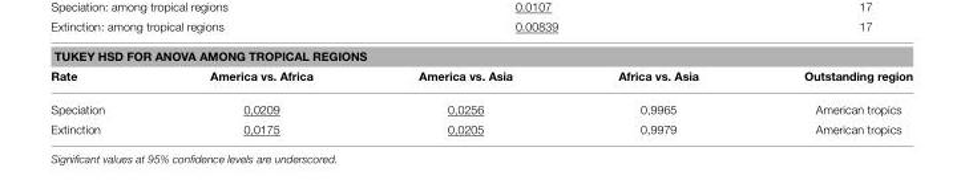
<table><thead><tr><td colspan="5">TUKEY HSD FOR ANOVA AMONG TROPICAL REGIONS</td></tr><tr><td>Rate</td><td>America vs. Africa</td><td>America vs. Asia</td><td>Africa vs. Asia</td><td>Outstanding region</td></tr></thead><tbody><tr><td>Speciation</td><td>0,0209</td><td>0,0256</td><td>0,9965</td><td>American tropics</td></tr><tr><td>Extinction</td><td>0,0175</td><td>0,0205</td><td>0,9979</td><td>American tropics</td></tr></tbody></table>